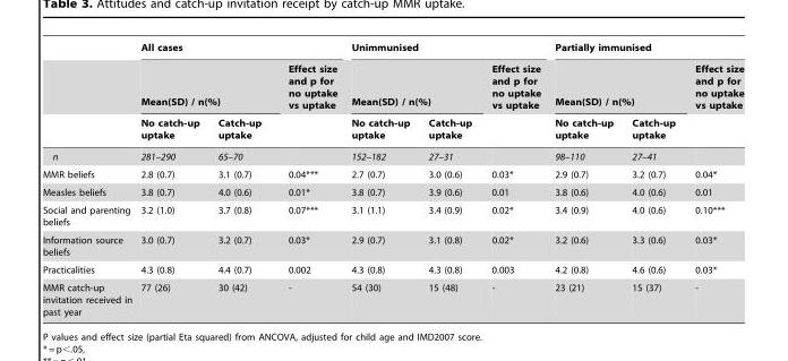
<table><thead><tr><td rowspan="3"></td><td colspan="3">All cases</td><td colspan="3">Unimmunised</td><td colspan="3">Partially immunised</td></tr><tr><td colspan="2">Mean(SD) / n(%)</td><td rowspan="2">Effect size and p for no uptake vs uptake</td><td colspan="2">Mean(SD) / n(%)</td><td rowspan="2">Effect size and p for no uptake vs uptake</td><td colspan="2">Mean(SD) / n(%)</td><td rowspan="2">Effect size and p for no uptake vs uptake</td></tr><tr><td>No catch-up uptake</td><td>Catch-up uptake</td><td>No catch-up uptake</td><td>Catch-up uptake</td><td>No catch-up uptake</td><td>Catch-up uptake</td></tr></thead><tbody><tr><td>n</td><td>281–290</td><td>65–70</td><td></td><td>152–182</td><td>27–31</td><td></td><td>98–110</td><td>27–41</td><td></td></tr><tr><td>MMR beliefs</td><td>2.8 (0.7)</td><td>3.1 (0.7)</td><td>0.04***</td><td>2.7 (0.7)</td><td>3.0 (0.6)</td><td>0.03*</td><td>2.9 (0.7)</td><td>3.2 (0.7)</td><td>0.04*</td></tr><tr><td>Measles beliefs</td><td>3.8 (0.7)</td><td>4.0 (0.6)</td><td>0.01*</td><td>3.8 (0.7)</td><td>3.9 (0.6)</td><td>0.01</td><td>3.8 (0.6)</td><td>4.0 (0.6)</td><td>0.01</td></tr><tr><td>Social and parenting beliefs</td><td>3.2 (1.0)</td><td>3.7 (0.8)</td><td>0.07***</td><td>3.1 (1.1)</td><td>3.4 (0.9)</td><td>0.02*</td><td>3.4 (0.9)</td><td>4.0 (0.6)</td><td>0.10***</td></tr><tr><td>Information source beliefs</td><td>3.0 (0.7)</td><td>3.2 (0.7)</td><td>0.03*</td><td>2.9 (0.7)</td><td>3.1 (0.8)</td><td>0.02*</td><td>3.2 (0.6)</td><td>3.3 (0.6)</td><td>0.03*</td></tr><tr><td>Practicalities</td><td>4.3 (0.8)</td><td>4.4 (0.7)</td><td>0.002</td><td>4.3 (0.8)</td><td>4.3 (0.8)</td><td>0.003</td><td>4.2 (0.8)</td><td>4.6 (0.6)</td><td>0.03*</td></tr><tr><td>MMR catch-up invitation received in past year</td><td>77 (26)</td><td>30 (42)</td><td>-</td><td>54 (30)</td><td>15 (48)</td><td>-</td><td>23 (21)</td><td>15 (37)</td><td>-</td></tr></tbody></table>